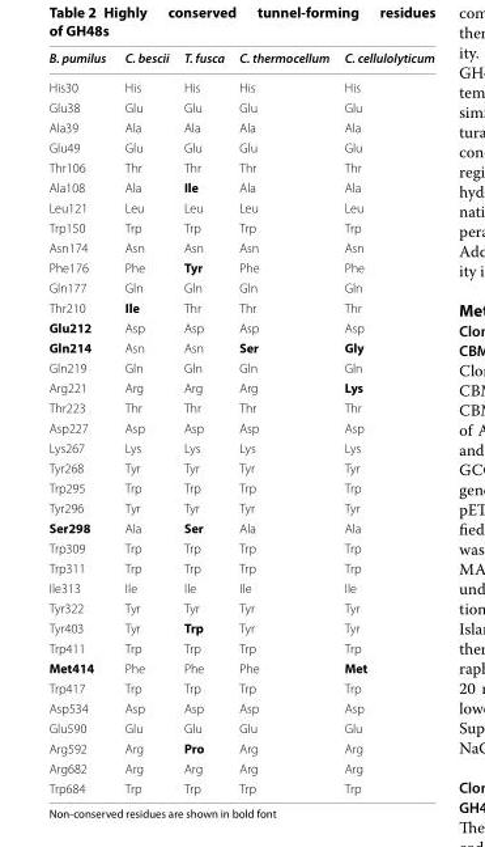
<table><thead><tr><td>B. pumilus</td><td>C. bescii</td><td>T. fusca</td><td>C. thermocellum</td><td>C. cellulolyticum</td></tr></thead><tbody><tr><td>His30</td><td>His</td><td>His</td><td>His</td><td>His</td></tr><tr><td>Glu38</td><td>Glu</td><td>Glu</td><td>Glu</td><td>Glu</td></tr><tr><td>Ala39</td><td>Ala</td><td>Ala</td><td>Ala</td><td>Ala</td></tr><tr><td>Glu49</td><td>Glu</td><td>Glu</td><td>Glu</td><td>Glu</td></tr><tr><td>Thr106</td><td>Thr</td><td>Thr</td><td>Thr</td><td>Thr</td></tr><tr><td>Ala108</td><td>Ala</td><td>Ile</td><td>Ala</td><td>Ala</td></tr><tr><td>Leu121</td><td>Leu</td><td>Leu</td><td>Leu</td><td>Leu</td></tr><tr><td>Trp150</td><td>Trp</td><td>Trp</td><td>Trp</td><td>Trp</td></tr><tr><td>Asn174</td><td>Asn</td><td>Asn</td><td>Asn</td><td>Asn</td></tr><tr><td>Phe176</td><td>Phe</td><td>Tyr</td><td>Phe</td><td>Phe</td></tr><tr><td>Gln177</td><td>Gln</td><td>Gln</td><td>Gln</td><td>Gln</td></tr><tr><td>Thr210</td><td>Ile</td><td>Thr</td><td>Thr</td><td>Thr</td></tr><tr><td>Glu212</td><td>Asp</td><td>Asp</td><td>Asp</td><td>Asp</td></tr><tr><td>Gln214</td><td>Asn</td><td>Asn</td><td>Ser</td><td>Gly</td></tr><tr><td>Gln219</td><td>Gln</td><td>Gln</td><td>Gln</td><td>Gln</td></tr><tr><td>Arg221</td><td>Arg</td><td>Arg</td><td>Arg</td><td>Lys</td></tr><tr><td>Thr223</td><td>Thr</td><td>Thr</td><td>Thr</td><td>Thr</td></tr><tr><td>Asp227</td><td>Asp</td><td>Asp</td><td>Asp</td><td>Asp</td></tr><tr><td>Lys267</td><td>Lys</td><td>Lys</td><td>Lys</td><td>Lys</td></tr><tr><td>Tyr268</td><td>Tyr</td><td>Tyr</td><td>Tyr</td><td>Tyr</td></tr><tr><td>Trp295</td><td>Trp</td><td>Trp</td><td>Trp</td><td>Trp</td></tr><tr><td>Tyr296</td><td>Tyr</td><td>Tyr</td><td>Tyr</td><td>Tyr</td></tr><tr><td>Ser298</td><td>Ala</td><td>Ser</td><td>Ala</td><td>Ala</td></tr><tr><td>Trp309</td><td>Trp</td><td>Trp</td><td>Trp</td><td>Trp</td></tr><tr><td>Trp311</td><td>Trp</td><td>Trp</td><td>Trp</td><td>Trp</td></tr><tr><td>Ile313</td><td>Ile</td><td>Ile</td><td>Ile</td><td>Ile</td></tr><tr><td>Tyr322</td><td>Tyr</td><td>Tyr</td><td>Tyr</td><td>Tyr</td></tr><tr><td>Tyr403</td><td>Tyr</td><td>Trp</td><td>Tyr</td><td>Tyr</td></tr><tr><td>Trp411</td><td>Trp</td><td>Trp</td><td>Trp</td><td>Trp</td></tr><tr><td>Met414</td><td>Phe</td><td>Phe</td><td>Phe</td><td>Met</td></tr><tr><td>Trp417</td><td>Trp</td><td>Trp</td><td>Trp</td><td>Trp</td></tr><tr><td>Asp534</td><td>Asp</td><td>Asp</td><td>Asp</td><td>Asp</td></tr><tr><td>Glu590</td><td>Glu</td><td>Glu</td><td>Glu</td><td>Glu</td></tr><tr><td>Arg592</td><td>Arg</td><td>Pro</td><td>Arg</td><td>Arg</td></tr><tr><td>Arg682</td><td>Arg</td><td>Arg</td><td>Arg</td><td>Arg</td></tr><tr><td>Trp684</td><td>Trp</td><td>Trp</td><td>Trp</td><td>Trp</td></tr></tbody></table>